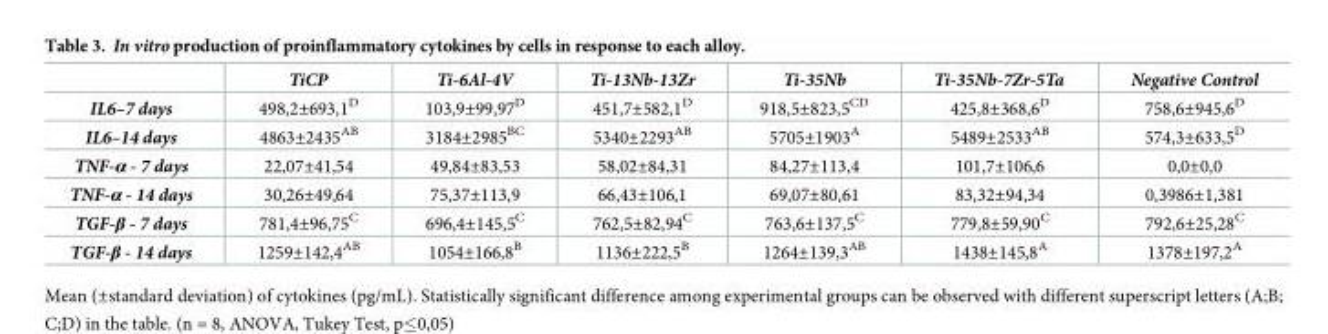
<table><thead><tr><td></td><td>TiCP</td><td>Ti-6Al-4V</td><td>Ti-13Nb-13Zr</td><td>Ti-35Nb</td><td>Ti-35Nb-7Zr-5Ta</td><td>Negative Control</td></tr></thead><tbody><tr><td>IL6–7 days</td><td>498,2±693,1<sup>D</sup></td><td>103,9±99,97<sup>D</sup></td><td>451,7±582,1<sup>D</sup></td><td>918,5±823,5<sup>CD</sup></td><td>425,8±368,6<sup>D</sup></td><td>758,6±945,6<sup>D</sup></td></tr><tr><td>IL6–14 days</td><td>4863±2435<sup>AB</sup></td><td>3184±2985<sup>BC</sup></td><td>5340±2293<sup>AB</sup></td><td>5705±1903<sup>A</sup></td><td>5489±2533<sup>AB</sup></td><td>574,3±633,5<sup>D</sup></td></tr><tr><td>TNF-α - 7 days</td><td>22,07±41,54</td><td>49,84±83,53</td><td>58,02±84,31</td><td>84,27±113,4</td><td>101,7±106,6</td><td>0,0±0,0</td></tr><tr><td>TNF-α - 14 days</td><td>30,26±49,64</td><td>75,37±113,9</td><td>66,43±106,1</td><td>69,07±80,61</td><td>83,32±94,34</td><td>0,3986±1,381</td></tr><tr><td>TGF-β - 7 days</td><td>781,4±96,75<sup>C</sup></td><td>696,4±145,5<sup>C</sup></td><td>762,5±82,94<sup>C</sup></td><td>763,6±137,5<sup>C</sup></td><td>779,8±59,90<sup>C</sup></td><td>792,6±25,28<sup>C</sup></td></tr><tr><td>TGF-β - 14 days</td><td>1259±142,4<sup>AB</sup></td><td>1054±166,8<sup>B</sup></td><td>1136±222,5<sup>B</sup></td><td>1264±139,3<sup>AB</sup></td><td>1438±145,8<sup>A</sup></td><td>1378±197,2<sup>A</sup></td></tr></tbody></table>